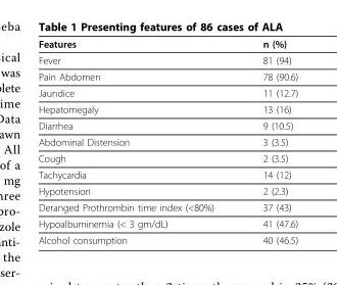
<table><thead><tr><td>Features</td><td>n (%)</td></tr></thead><tbody><tr><td>Fever</td><td>81 (94)</td></tr><tr><td>Pain Abdomen</td><td>78 (90.6)</td></tr><tr><td>Jaundice</td><td>11 (12.7)</td></tr><tr><td>Hepatomegaly</td><td>13 (16)</td></tr><tr><td>Diarrhea</td><td>9 (10.5)</td></tr><tr><td>Abdominal Distension</td><td>3 (3.5)</td></tr><tr><td>Cough</td><td>2 (3.5)</td></tr><tr><td>Tachycardia</td><td>14 (12)</td></tr><tr><td>Hypotension</td><td>2 (2.3)</td></tr><tr><td>Deranged Prothrombin time index (&lt;80%)</td><td>37 (43)</td></tr><tr><td>Hypoalbuminemia (&lt; 3 gm/dL)</td><td>41 (47.6)</td></tr><tr><td>Alcohol consumption</td><td>40 (46.5)</td></tr></tbody></table>